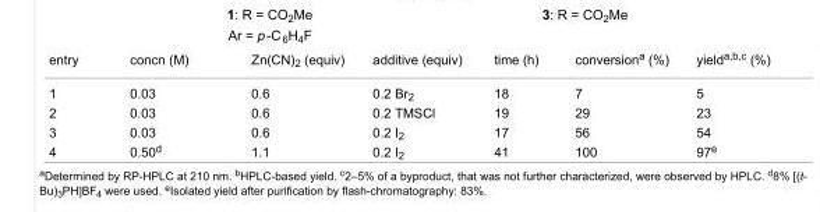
<table><tbody><tr><td>entry</td><td>concn (M)</td><td>Zn(CN)<sub>2</sub> (equiv)</td><td>additive (equiv)</td><td>time (h)</td><td>conversion<sup>a</sup> (%)</td><td>yield<sup>a,b,c</sup> (%)</td></tr><tr><td>1</td><td>0.03</td><td>0.6</td><td>0.2 Br<sub>2</sub></td><td>18</td><td>7</td><td>5</td></tr><tr><td>2</td><td>0.03</td><td>0.6</td><td>0.2 TMSCl</td><td>19</td><td>29</td><td>23</td></tr><tr><td>3</td><td>0.03</td><td>0.6</td><td>0.2 I<sub>2</sub></td><td>17</td><td>56</td><td>54</td></tr><tr><td>4</td><td>0.50<sup>d</sup></td><td>1.1</td><td>0.2 I<sub>2</sub></td><td>41</td><td>100</td><td>97<sup>e</sup></td></tr></tbody></table>